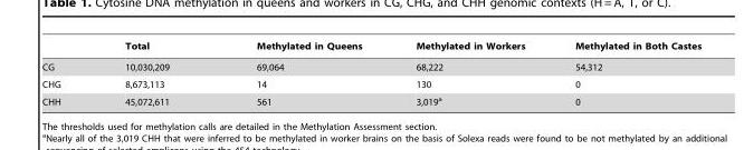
<table><thead><tr><td></td><td>Total</td><td>Methylated in Queens</td><td>Methylated in Workers</td><td>Methylated in Both Castes</td></tr></thead><tbody><tr><td>CG</td><td>10,030,209</td><td>69,064</td><td>68,222</td><td>54,312</td></tr><tr><td>CHG</td><td>8,673,113</td><td>14</td><td>130</td><td>0</td></tr><tr><td>CHH</td><td>45,072,611</td><td>561</td><td>3,019<sup>a</sup></td><td>0</td></tr></tbody></table>